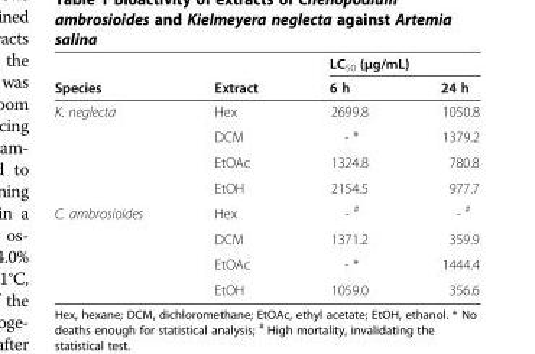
<table><thead><tr><td rowspan="2">Species</td><td rowspan="2">Extract</td><td colspan="2">LC<sub>50</sub> (μg/mL)</td></tr><tr><td>6 h</td><td>24 h</td></tr></thead><tbody><tr><td rowspan="4">K. neglecta</td><td>Hex</td><td>2699.8</td><td>1050.8</td></tr><tr><td>DCM</td><td>- *</td><td>1379.2</td></tr><tr><td>EtOAc</td><td>1324.8</td><td>780.8</td></tr><tr><td>EtOH</td><td>2154.5</td><td>977.7</td></tr><tr><td rowspan="4">C. ambrosioides</td><td>Hex</td><td>- <sup>#</sup></td><td>- <sup>#</sup></td></tr><tr><td>DCM</td><td>1371.2</td><td>359.9</td></tr><tr><td>EtOAc</td><td>- *</td><td>1444.4</td></tr><tr><td>EtOH</td><td>1059.0</td><td>356.6</td></tr></tbody></table>